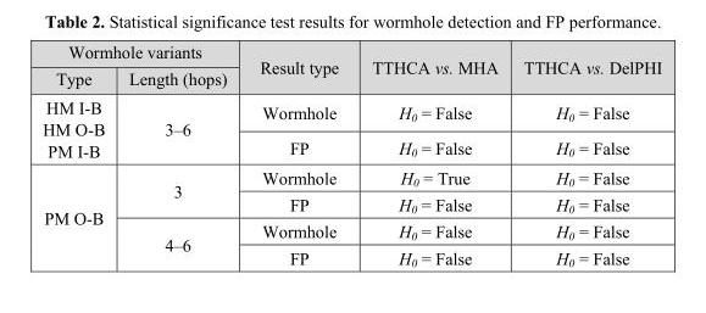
<table><thead><tr><td colspan="2">Wormhole variants</td><td rowspan="2">Result type</td><td rowspan="2">TTHCA vs. MHA</td><td rowspan="2">TTHCA vs. DelPHI</td></tr><tr><td>Type</td><td>Length (hops)</td></tr></thead><tbody><tr><td rowspan="2">HM I-B HM O-B PM I-B</td><td rowspan="2">3–6</td><td>Wormhole</td><td>H<sub>0</sub> = False</td><td>H<sub>0</sub> = False</td></tr><tr><td>FP</td><td>H<sub>0</sub> = False</td><td>H<sub>0</sub> = False</td></tr><tr><td rowspan="4">PM O-B</td><td rowspan="2">3</td><td>Wormhole</td><td>H<sub>0</sub> = True</td><td>H<sub>0</sub> = False</td></tr><tr><td>FP</td><td>H<sub>0</sub> = False</td><td>H<sub>0</sub> = False</td></tr><tr><td rowspan="2">4–6</td><td>Wormhole</td><td>H<sub>0</sub> = False</td><td>H<sub>0</sub> = False</td></tr><tr><td>FP</td><td>H<sub>0</sub> = False</td><td>H<sub>0</sub> = False</td></tr></tbody></table>